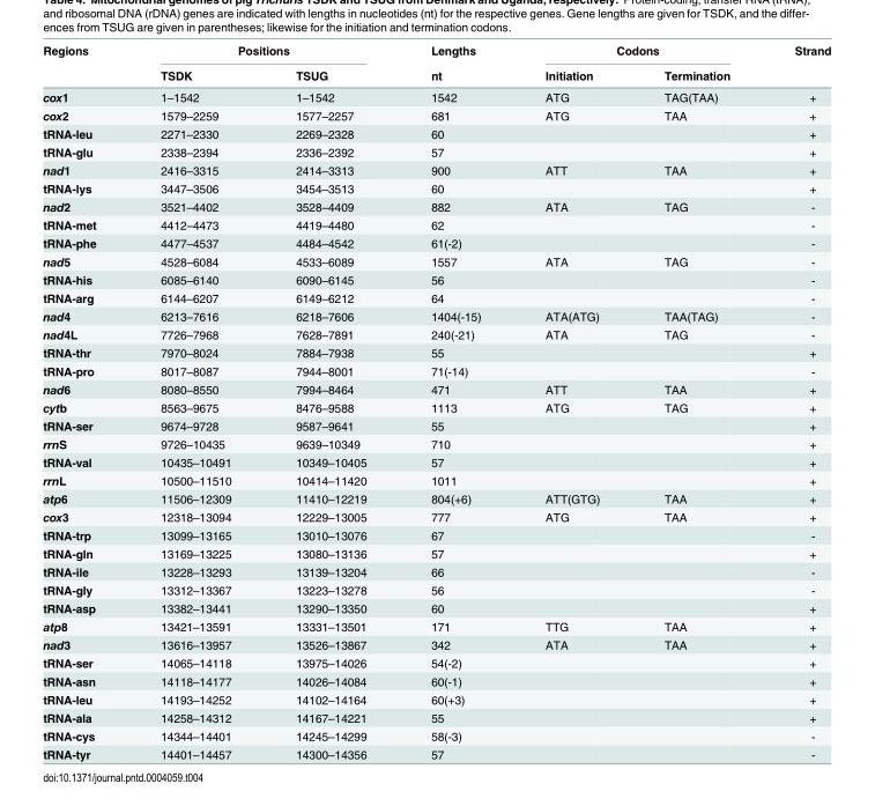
<table><thead><tr><td rowspan="2">Regions</td><td colspan="2">Positions</td><td rowspan="2">Lengths nt</td><td colspan="2">Codons</td><td rowspan="2">Strand</td></tr><tr><td>TSDK</td><td>TSUG</td><td>Initiation</td><td>Termination</td></tr></thead><tbody><tr><td>cox1</td><td>1–1542</td><td>1–1542</td><td>1542</td><td>ATG</td><td>TAG(TAA)</td><td>+</td></tr><tr><td>cox2</td><td>1579–2259</td><td>1577–2257</td><td>681</td><td>ATG</td><td>TAA</td><td>+</td></tr><tr><td>tRNA-leu</td><td>2271–2330</td><td>2269–2328</td><td>60</td><td></td><td></td><td>+</td></tr><tr><td>tRNA-glu</td><td>2338–2394</td><td>2336–2392</td><td>57</td><td></td><td></td><td>+</td></tr><tr><td>nad1</td><td>2416–3315</td><td>2414–3313</td><td>900</td><td>ATT</td><td>TAA</td><td>+</td></tr><tr><td>tRNA-lys</td><td>3447–3506</td><td>3454–3513</td><td>60</td><td></td><td></td><td>+</td></tr><tr><td>nad2</td><td>3521–4402</td><td>3528–4409</td><td>882</td><td>ATA</td><td>TAG</td><td>-</td></tr><tr><td>tRNA-met</td><td>4412–4473</td><td>4419–4480</td><td>62</td><td></td><td></td><td>-</td></tr><tr><td>tRNA-phe</td><td>4477–4537</td><td>4484–4542</td><td>61(-2)</td><td></td><td></td><td>-</td></tr><tr><td>nad5</td><td>4528–6084</td><td>4533–6089</td><td>1557</td><td>ATA</td><td>TAG</td><td>-</td></tr><tr><td>tRNA-his</td><td>6085–6140</td><td>6090–6145</td><td>56</td><td></td><td></td><td>-</td></tr><tr><td>tRNA-arg</td><td>6144–6207</td><td>6149–6212</td><td>64</td><td></td><td></td><td>-</td></tr><tr><td>nad4</td><td>6213–7616</td><td>6218–7606</td><td>1404(-15)</td><td>ATA(ATG)</td><td>TAA(TAG)</td><td>-</td></tr><tr><td>nad4L</td><td>7726–7968</td><td>7628–7891</td><td>240(-21)</td><td>ATA</td><td>TAG</td><td>-</td></tr><tr><td>tRNA-thr</td><td>7970–8024</td><td>7884–7938</td><td>55</td><td></td><td></td><td>+</td></tr><tr><td>tRNA-pro</td><td>8017–8087</td><td>7944–8001</td><td>71(-14)</td><td></td><td></td><td>-</td></tr><tr><td>nad6</td><td>8080–8550</td><td>7994–8464</td><td>471</td><td>ATT</td><td>TAA</td><td>+</td></tr><tr><td>cytb</td><td>8563–9675</td><td>8476–9588</td><td>1113</td><td>ATG</td><td>TAG</td><td>+</td></tr><tr><td>tRNA-ser</td><td>9674–9728</td><td>9587–9641</td><td>55</td><td></td><td></td><td>+</td></tr><tr><td>rrnS</td><td>9726–10435</td><td>9639–10349</td><td>710</td><td></td><td></td><td>+</td></tr><tr><td>tRNA-val</td><td>10435–10491</td><td>10349–10405</td><td>57</td><td></td><td></td><td>+</td></tr><tr><td>rrnL</td><td>10500–11510</td><td>10414–11420</td><td>1011</td><td></td><td></td><td>+</td></tr><tr><td>atp6</td><td>11506–12309</td><td>11410–12219</td><td>804(+6)</td><td>ATT(GTG)</td><td>TAA</td><td>+</td></tr><tr><td>cox3</td><td>12318–13094</td><td>12229–13005</td><td>777</td><td>ATG</td><td>TAA</td><td>+</td></tr><tr><td>tRNA-trp</td><td>13099–13165</td><td>13010–13076</td><td>67</td><td></td><td></td><td>-</td></tr><tr><td>tRNA-gln</td><td>13169–13225</td><td>13080–13136</td><td>57</td><td></td><td></td><td>+</td></tr><tr><td>tRNA-ile</td><td>13228–13293</td><td>13139–13204</td><td>66</td><td></td><td></td><td>-</td></tr><tr><td>tRNA-gly</td><td>13312–13367</td><td>13223–13278</td><td>56</td><td></td><td></td><td>-</td></tr><tr><td>tRNA-asp</td><td>13382–13441</td><td>13290–13350</td><td>60</td><td></td><td></td><td>+</td></tr><tr><td>atp8</td><td>13421–13591</td><td>13331–13501</td><td>171</td><td>TTG</td><td>TAA</td><td>+</td></tr><tr><td>nad3</td><td>13616–13957</td><td>13526–13867</td><td>342</td><td>ATA</td><td>TAA</td><td>+</td></tr><tr><td>tRNA-ser</td><td>14065–14118</td><td>13975–14026</td><td>54(-2)</td><td></td><td></td><td>+</td></tr><tr><td>tRNA-asn</td><td>14118–14177</td><td>14026–14084</td><td>60(-1)</td><td></td><td></td><td>+</td></tr><tr><td>tRNA-leu</td><td>14193–14252</td><td>14102–14164</td><td>60(+3)</td><td></td><td></td><td>+</td></tr><tr><td>tRNA-ala</td><td>14258–14312</td><td>14167–14221</td><td>55</td><td></td><td></td><td>+</td></tr><tr><td>tRNA-cys</td><td>14344–14401</td><td>14245–14299</td><td>58(-3)</td><td></td><td></td><td>-</td></tr><tr><td>tRNA-tyr</td><td>14401–14457</td><td>14300–14356</td><td>57</td><td></td><td></td><td>-</td></tr></tbody></table>